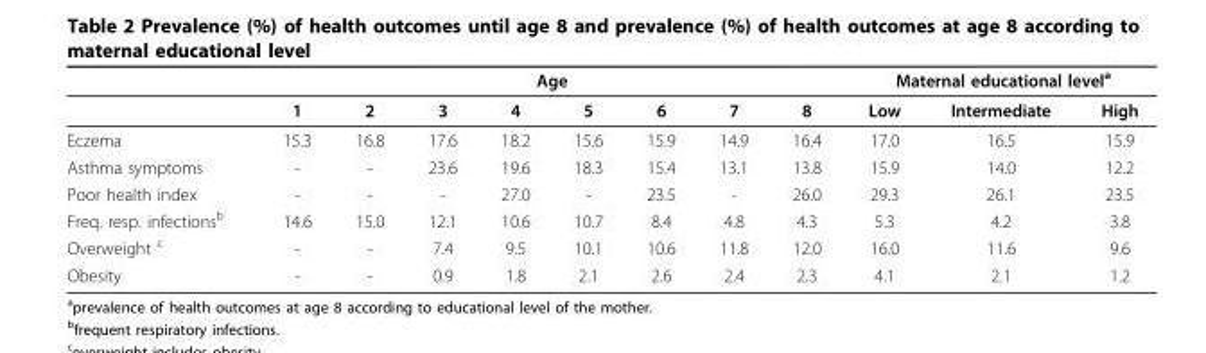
<table><thead><tr><td rowspan="2"></td><td colspan="8">Age</td><td colspan="3">Maternal educational level<sup>a</sup></td></tr><tr><td>1</td><td>2</td><td>3</td><td>4</td><td>5</td><td>6</td><td>7</td><td>8</td><td>Low</td><td>Intermediate</td><td>High</td></tr></thead><tbody><tr><td>Eczema</td><td>15.3</td><td>16.8</td><td>17.6</td><td>18.2</td><td>15.6</td><td>15.9</td><td>14.9</td><td>16.4</td><td>17.0</td><td>16.5</td><td>15.9</td></tr><tr><td>Asthma symptoms</td><td>-</td><td>-</td><td>23.6</td><td>19.6</td><td>18.3</td><td>15.4</td><td>13.1</td><td>13.8</td><td>15.9</td><td>14.0</td><td>12.2</td></tr><tr><td>Poor health index</td><td>-</td><td>-</td><td>-</td><td>27.0</td><td>-</td><td>23.5</td><td>-</td><td>26.0</td><td>29.3</td><td>26.1</td><td>23.5</td></tr><tr><td>Freq. resp. infections<sup>b</sup></td><td>14.6</td><td>15.0</td><td>12.1</td><td>10.6</td><td>10.7</td><td>8.4</td><td>4.8</td><td>4.3</td><td>5.3</td><td>4.2</td><td>3.8</td></tr><tr><td>Overweight <sup>c</sup></td><td>-</td><td>-</td><td>7.4</td><td>9.5</td><td>10.1</td><td>10.6</td><td>11.8</td><td>12.0</td><td>16.0</td><td>11.6</td><td>9.6</td></tr><tr><td>Obesity</td><td>-</td><td>-</td><td>0.9</td><td>1.8</td><td>2.1</td><td>2.6</td><td>2.4</td><td>2.3</td><td>4.1</td><td>2.1</td><td>1.2</td></tr></tbody></table>